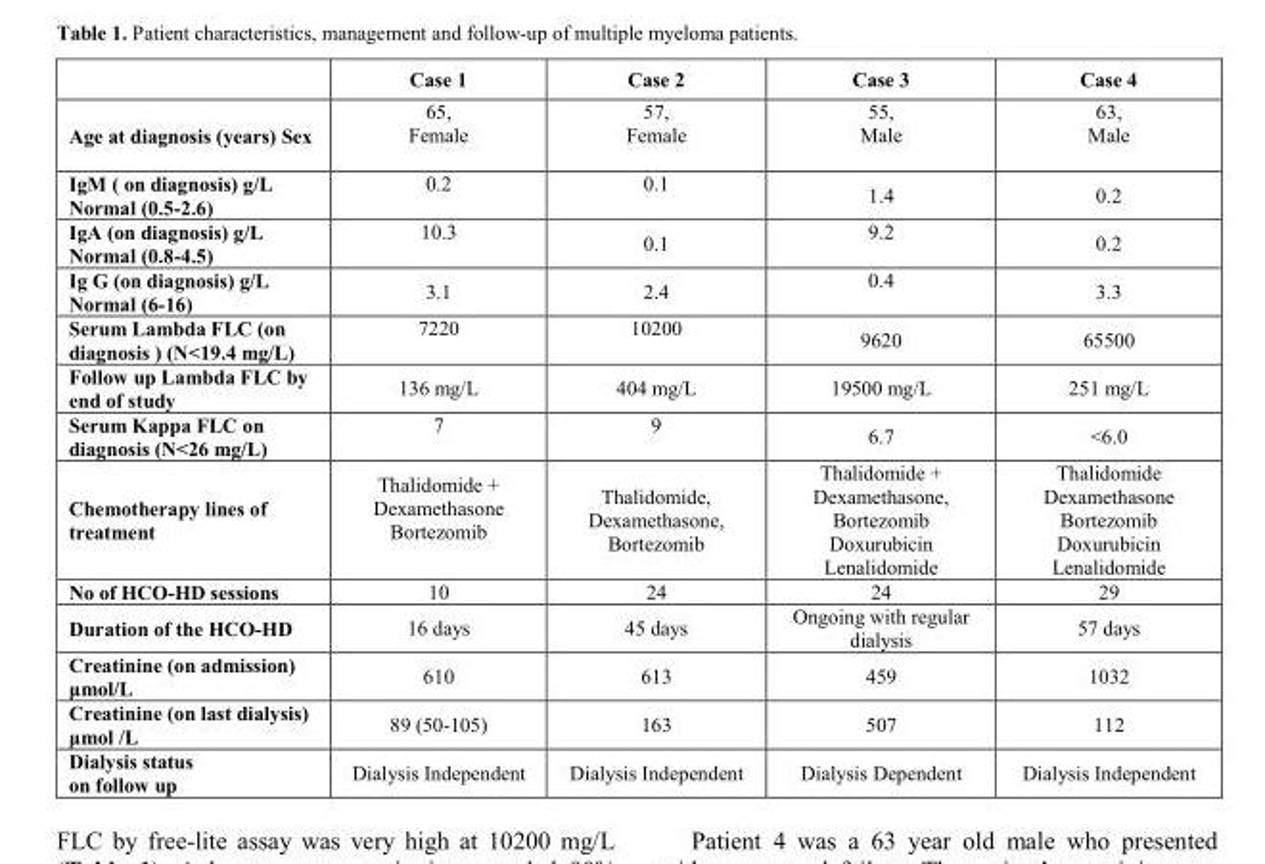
<table><thead><tr><td></td><td>Case 1</td><td>Case 2</td><td>Case 3</td><td>Case 4</td></tr></thead><tbody><tr><td>Age at diagnosis (years) Sex</td><td>65, Female</td><td>57, Female</td><td>55, Male</td><td>63, Male</td></tr><tr><td>IgM ( on diagnosis) g/L Normal (0.5-2.6)</td><td>0.2</td><td>0.1</td><td>1.4</td><td>0.2</td></tr><tr><td>IgA (on diagnosis) g/L Normal (0.8-4.5)</td><td>10.3</td><td>0.1</td><td>9.2</td><td>0.2</td></tr><tr><td>Ig G (on diagnosis) g/L Normal (6-16)</td><td>3.1</td><td>2.4</td><td>0.4</td><td>3.3</td></tr><tr><td>Serum Lambda FLC (on diagnosis ) (N&lt;19.4 mg/L)</td><td>7220</td><td>10200</td><td>9620</td><td>65500</td></tr><tr><td>Follow up Lambda FLC by end of study</td><td>136 mg/L</td><td>404 mg/L</td><td>19500 mg/L</td><td>251 mg/L</td></tr><tr><td>Serum Kappa FLC on diagnosis (N&lt;26 mg/L)</td><td>7</td><td>9</td><td>6.7</td><td>&lt;6.0</td></tr><tr><td>Chemotherapy lines of treatment</td><td>Thalidomide + Dexamethasone Bortezomib</td><td>Thalidomide, Dexamethasone, Bortezomib</td><td>Thalidomide + Dexamethasone, Bortezomib Doxurubicin Lenalidomide</td><td>Thalidomide Dexamethasone Bortezomib Doxurubicin Lenalidomide</td></tr><tr><td>No of HCO-HD sessions</td><td>10</td><td>24</td><td>24</td><td>29</td></tr><tr><td>Duration of the HCO-HD</td><td>16 days</td><td>45 days</td><td>Ongoing with regular dialysis</td><td>57 days</td></tr><tr><td>Creatinine (on admission) μmol/L</td><td>610</td><td>613</td><td>459</td><td>1032</td></tr><tr><td>Creatinine (on last dialysis) μmol /L</td><td>89 (50-105)</td><td>163</td><td>507</td><td>112</td></tr><tr><td>Dialysis status on follow up</td><td>Dialysis Independent</td><td>Dialysis Independent</td><td>Dialysis Dependent</td><td>Dialysis Independent</td></tr></tbody></table>